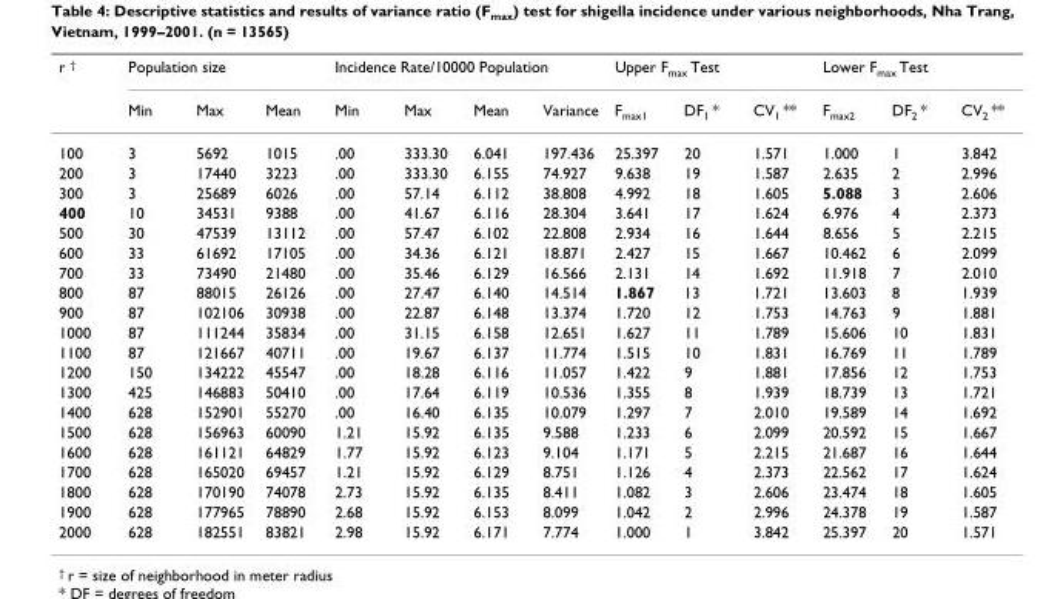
<table><thead><tr><td rowspan="2">r <sup>†</sup></td><td colspan="3">Population size</td><td colspan="4">Incidence Rate/10000 Population</td><td colspan="3">Upper F<sub>max</sub> Test</td><td colspan="3">Lower F<sub>max</sub> Test</td></tr><tr><td>Min</td><td>Max</td><td>Mean</td><td>Min</td><td>Max</td><td>Mean</td><td>Variance</td><td>F<sub>max1</sub></td><td>DF<sub>1</sub> *</td><td>CV<sub>1</sub> **</td><td>F<sub>max2</sub></td><td>DF<sub>2</sub> *</td><td>CV<sub>2</sub> **</td></tr></thead><tbody><tr><td>100</td><td>3</td><td>5692</td><td>1015</td><td>.00</td><td>333.30</td><td>6.041</td><td>197.436</td><td>25.397</td><td>20</td><td>1.571</td><td>1.000</td><td>1</td><td>3.842</td></tr><tr><td>200</td><td>3</td><td>17440</td><td>3223</td><td>.00</td><td>333.30</td><td>6.155</td><td>74.927</td><td>9.638</td><td>19</td><td>1.587</td><td>2.635</td><td>2</td><td>2.996</td></tr><tr><td>300</td><td>3</td><td>25689</td><td>6026</td><td>.00</td><td>57.14</td><td>6.112</td><td>38.808</td><td>4.992</td><td>18</td><td>1.605</td><td>5.088</td><td>3</td><td>2.606</td></tr><tr><td>400</td><td>10</td><td>34531</td><td>9388</td><td>.00</td><td>41.67</td><td>6.116</td><td>28.304</td><td>3.641</td><td>17</td><td>1.624</td><td>6.976</td><td>4</td><td>2.373</td></tr><tr><td>500</td><td>30</td><td>47539</td><td>13112</td><td>.00</td><td>57.47</td><td>6.102</td><td>22.808</td><td>2.934</td><td>16</td><td>1.644</td><td>8.656</td><td>5</td><td>2.215</td></tr><tr><td>600</td><td>33</td><td>61692</td><td>17105</td><td>.00</td><td>34.36</td><td>6.121</td><td>18.871</td><td>2.427</td><td>15</td><td>1.667</td><td>10.462</td><td>6</td><td>2.099</td></tr><tr><td>700</td><td>33</td><td>73490</td><td>21480</td><td>.00</td><td>35.46</td><td>6.129</td><td>16.566</td><td>2.131</td><td>14</td><td>1.692</td><td>11.918</td><td>7</td><td>2.010</td></tr><tr><td>800</td><td>87</td><td>88015</td><td>26126</td><td>.00</td><td>27.47</td><td>6.140</td><td>14.514</td><td>1.867</td><td>13</td><td>1.721</td><td>13.603</td><td>8</td><td>1.939</td></tr><tr><td>900</td><td>87</td><td>102106</td><td>30938</td><td>.00</td><td>22.87</td><td>6.148</td><td>13.374</td><td>1.720</td><td>12</td><td>1.753</td><td>14.763</td><td>9</td><td>1.881</td></tr><tr><td>1000</td><td>87</td><td>111244</td><td>35834</td><td>.00</td><td>31.15</td><td>6.158</td><td>12.651</td><td>1.627</td><td>11</td><td>1.789</td><td>15.606</td><td>10</td><td>1.831</td></tr><tr><td>1100</td><td>87</td><td>121667</td><td>40711</td><td>.00</td><td>19.67</td><td>6.137</td><td>11.774</td><td>1.515</td><td>10</td><td>1.831</td><td>16.769</td><td>11</td><td>1.789</td></tr><tr><td>1200</td><td>150</td><td>134222</td><td>45547</td><td>.00</td><td>18.28</td><td>6.116</td><td>11.057</td><td>1.422</td><td>9</td><td>1.881</td><td>17.856</td><td>12</td><td>1.753</td></tr><tr><td>1300</td><td>425</td><td>146883</td><td>50410</td><td>.00</td><td>17.64</td><td>6.119</td><td>10.536</td><td>1.355</td><td>8</td><td>1.939</td><td>18.739</td><td>13</td><td>1.721</td></tr><tr><td>1400</td><td>628</td><td>152901</td><td>55270</td><td>.00</td><td>16.40</td><td>6.135</td><td>10.079</td><td>1.297</td><td>7</td><td>2.010</td><td>19.589</td><td>14</td><td>1.692</td></tr><tr><td>1500</td><td>628</td><td>156963</td><td>60090</td><td>1.21</td><td>15.92</td><td>6.135</td><td>9.588</td><td>1.233</td><td>6</td><td>2.099</td><td>20.592</td><td>15</td><td>1.667</td></tr><tr><td>1600</td><td>628</td><td>161121</td><td>64829</td><td>1.77</td><td>15.92</td><td>6.123</td><td>9.104</td><td>1.171</td><td>5</td><td>2.215</td><td>21.687</td><td>16</td><td>1.644</td></tr><tr><td>1700</td><td>628</td><td>165020</td><td>69457</td><td>1.21</td><td>15.92</td><td>6.129</td><td>8.751</td><td>1.126</td><td>4</td><td>2.373</td><td>22.562</td><td>17</td><td>1.624</td></tr><tr><td>1800</td><td>628</td><td>170190</td><td>74078</td><td>2.73</td><td>15.92</td><td>6.135</td><td>8.411</td><td>1.082</td><td>3</td><td>2.606</td><td>23.474</td><td>18</td><td>1.605</td></tr><tr><td>1900</td><td>628</td><td>177965</td><td>78890</td><td>2.68</td><td>15.92</td><td>6.153</td><td>8.099</td><td>1.042</td><td>2</td><td>2.996</td><td>24.378</td><td>19</td><td>1.587</td></tr><tr><td>2000</td><td>628</td><td>182551</td><td>83821</td><td>2.98</td><td>15.92</td><td>6.171</td><td>7.774</td><td>1.000</td><td>1</td><td>3.842</td><td>25.397</td><td>20</td><td>1.571</td></tr></tbody></table>